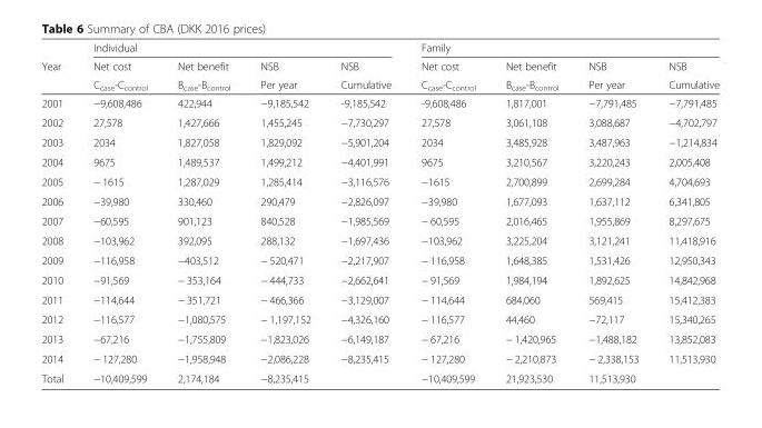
<table><thead><tr><td rowspan="3">Year</td><td colspan="4">Individual</td><td colspan="4">Family</td></tr><tr><td rowspan="2">Net cost C<sub>case</sub>-C<sub>control</sub></td><td rowspan="2">Net benefit B<sub>case</sub>-B<sub>control</sub></td><td rowspan="2">NSB Per year</td><td rowspan="2">NSB Cumulative</td><td rowspan="2">Net cost C<sub>case</sub>-C<sub>control</sub></td><td rowspan="2">Net benefit B<sub>case</sub>-B<sub>control</sub></td><td rowspan="2">NSB Per year</td><td rowspan="2">NSB Cumulative</td></tr><tr></tr></thead><tbody><tr><td>2001</td><td>−9,608,486</td><td>422,944</td><td>−9,185,542</td><td>-9,185,542</td><td>-9,608,486</td><td>1,817,001</td><td>−7,791,485</td><td>−7,791,485</td></tr><tr><td>2002</td><td>27,578</td><td>1,427,666</td><td>1,455,245</td><td>−7,730,297</td><td>27,578</td><td>3,061,108</td><td>3,088,687</td><td>−4,702,797</td></tr><tr><td>2003</td><td>2034</td><td>1,827,058</td><td>1,829,092</td><td>−5,901,204</td><td>2034</td><td>3,485,928</td><td>3,487,963</td><td>−1,214,834</td></tr><tr><td>2004</td><td>9675</td><td>1,489,537</td><td>1,499,212</td><td>−4,401,991</td><td>9675</td><td>3,210,567</td><td>3,220,243</td><td>2,005,408</td></tr><tr><td>2005</td><td>− 1615</td><td>1,287,029</td><td>1,285,414</td><td>−3,116,576</td><td>−1615</td><td>2,700,899</td><td>2,699,284</td><td>4,704,693</td></tr><tr><td>2006</td><td>−39,980</td><td>330,460</td><td>290,479</td><td>−2,826,097</td><td>−39,980</td><td>1,677,093</td><td>1,637,112</td><td>6,341,805</td></tr><tr><td>2007</td><td>−60,595</td><td>901,123</td><td>840,528</td><td>−1,985,569</td><td>− 60,595</td><td>2,016,465</td><td>1,955,869</td><td>8,297,675</td></tr><tr><td>2008</td><td>−103,962</td><td>392,095</td><td>288,132</td><td>−1,697,436</td><td>−103,962</td><td>3,225,204</td><td>3,121,241</td><td>11,418,916</td></tr><tr><td>2009</td><td>−116,958</td><td>−403,512</td><td>− 520,471</td><td>−2,217,907</td><td>− 116,958</td><td>1,648,385</td><td>1,531,426</td><td>12,950,343</td></tr><tr><td>2010</td><td>−91,569</td><td>− 353,164</td><td>− 444,733</td><td>−2,662,641</td><td>− 91,569</td><td>1,984,194</td><td>1,892,625</td><td>14,842,968</td></tr><tr><td>2011</td><td>−114,644</td><td>− 351,721</td><td>− 466,366</td><td>−3,129,007</td><td>− 114,644</td><td>684,060</td><td>569,415</td><td>15,412,383</td></tr><tr><td>2012</td><td>−116,577</td><td>−1,080,575</td><td>− 1,197,152</td><td>−4,326,160</td><td>− 116,577</td><td>44,460</td><td>−72,117</td><td>15,340,265</td></tr><tr><td>2013</td><td>−67,216</td><td>−1,755,809</td><td>−1,823,026</td><td>−6,149,187</td><td>− 67,216</td><td>− 1,420,965</td><td>−1,488,182</td><td>13,852,083</td></tr><tr><td>2014</td><td>− 127,280</td><td>−1,958,948</td><td>−2,086,228</td><td>−8,235,415</td><td>− 127,280</td><td>− 2,210,873</td><td>− 2,338,153</td><td>11,513,930</td></tr><tr><td>Total</td><td>−10,409,599</td><td>2,174,184</td><td>−8,235,415</td><td></td><td>−10,409,599</td><td>21,923,530</td><td>11,513,930</td><td></td></tr></tbody></table>